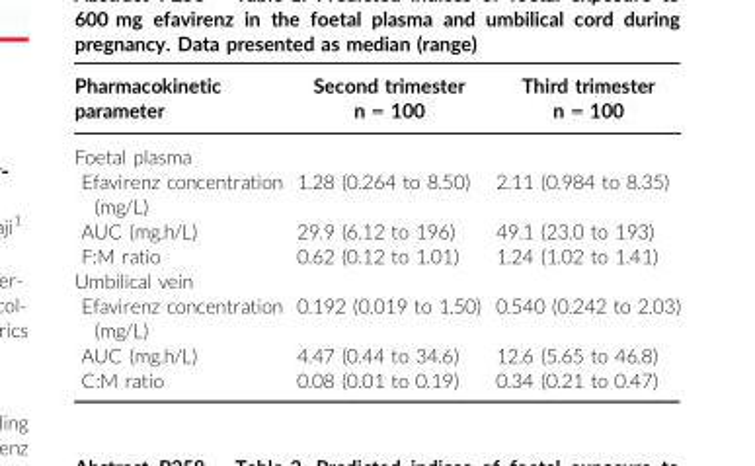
<table><thead><tr><td>Pharmacokinetic parameter</td><td>Second trimester n = 100</td><td>Third trimester n = 100</td></tr></thead><tbody><tr><td colspan="3">Foetal plasma</td></tr><tr><td>Efavirenz concentration (mg/L)</td><td>1.28 (0.264 to 8.50)</td><td>2.11 (0.984 to 8.35)</td></tr><tr><td>AUC (mg.h/L)</td><td>29.9 (6.12 to 196)</td><td>49.1 (23.0 to 193)</td></tr><tr><td>F:M ratio</td><td>0.62 (0.12 to 1.01)</td><td>1.24 (1.02 to 1.41)</td></tr><tr><td colspan="3">Umbilical vein</td></tr><tr><td>Efavirenz concentration (mg/L)</td><td>0.192 (0.019 to 1.50)</td><td>0.540 (0.242 to 2.03)</td></tr><tr><td>AUC (mg.h/L)</td><td>4.47 (0.44 to 34.6)</td><td>12.6 (5.65 to 46.8)</td></tr><tr><td>C:M ratio</td><td>0.08 (0.01 to 0.19)</td><td>0.34 (0.21 to 0.47)</td></tr></tbody></table>